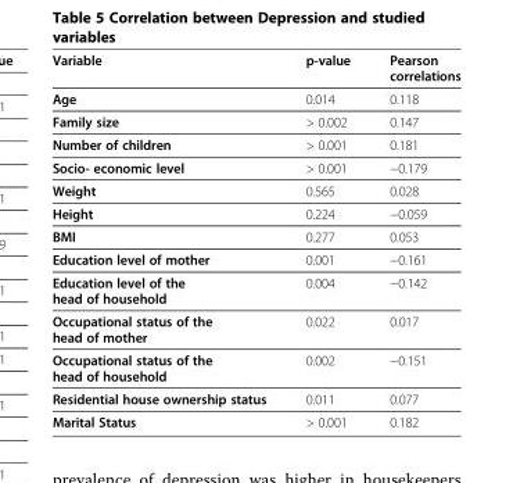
<table><thead><tr><td>Variable</td><td>p-value</td><td>Pearson correlations</td></tr></thead><tbody><tr><td>Age</td><td>0.014</td><td>0.118</td></tr><tr><td>Family size</td><td>&gt; 0.002</td><td>0.147</td></tr><tr><td>Number of children</td><td>&gt; 0.001</td><td>0.181</td></tr><tr><td>Socio- economic level</td><td>&gt; 0.001</td><td>−0.179</td></tr><tr><td>Weight</td><td>0.565</td><td>0.028</td></tr><tr><td>Height</td><td>0.224</td><td>−0.059</td></tr><tr><td>BMI</td><td>0.277</td><td>0.053</td></tr><tr><td>Education level of mother</td><td>0.001</td><td>−0.161</td></tr><tr><td>Education level of the head of household</td><td>0.004</td><td>−0.142</td></tr><tr><td>Occupational status of the head of mother</td><td>0.022</td><td>0.017</td></tr><tr><td>Occupational status of the head of household</td><td>0.002</td><td>−0.151</td></tr><tr><td>Residential house ownership status</td><td>0.011</td><td>0.077</td></tr><tr><td>Marital Status</td><td>&gt; 0.001</td><td>0.182</td></tr></tbody></table>